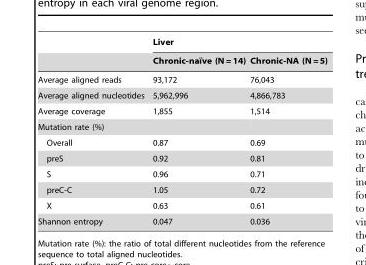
<table><thead><tr><td rowspan="2"></td><td colspan="2">Liver</td></tr><tr><td>Chronic-naı¨ve (N = 14)</td><td>Chronic-NA (N = 5)</td></tr></thead><tbody><tr><td>Average aligned reads</td><td>93,172</td><td>76,043</td></tr><tr><td>Average aligned nucleotides</td><td>5,962,996</td><td>4,866,783</td></tr><tr><td>Average coverage</td><td>1,855</td><td>1,514</td></tr><tr><td colspan="3">Mutation rate (%)</td></tr><tr><td>Overall</td><td>0.87</td><td>0.69</td></tr><tr><td>preS</td><td>0.92</td><td>0.81</td></tr><tr><td>S</td><td>0.96</td><td>0.71</td></tr><tr><td>preC-C</td><td>1.05</td><td>0.72</td></tr><tr><td>X</td><td>0.63</td><td>0.61</td></tr><tr><td>Shannon entropy</td><td>0.047</td><td>0.036</td></tr></tbody></table>